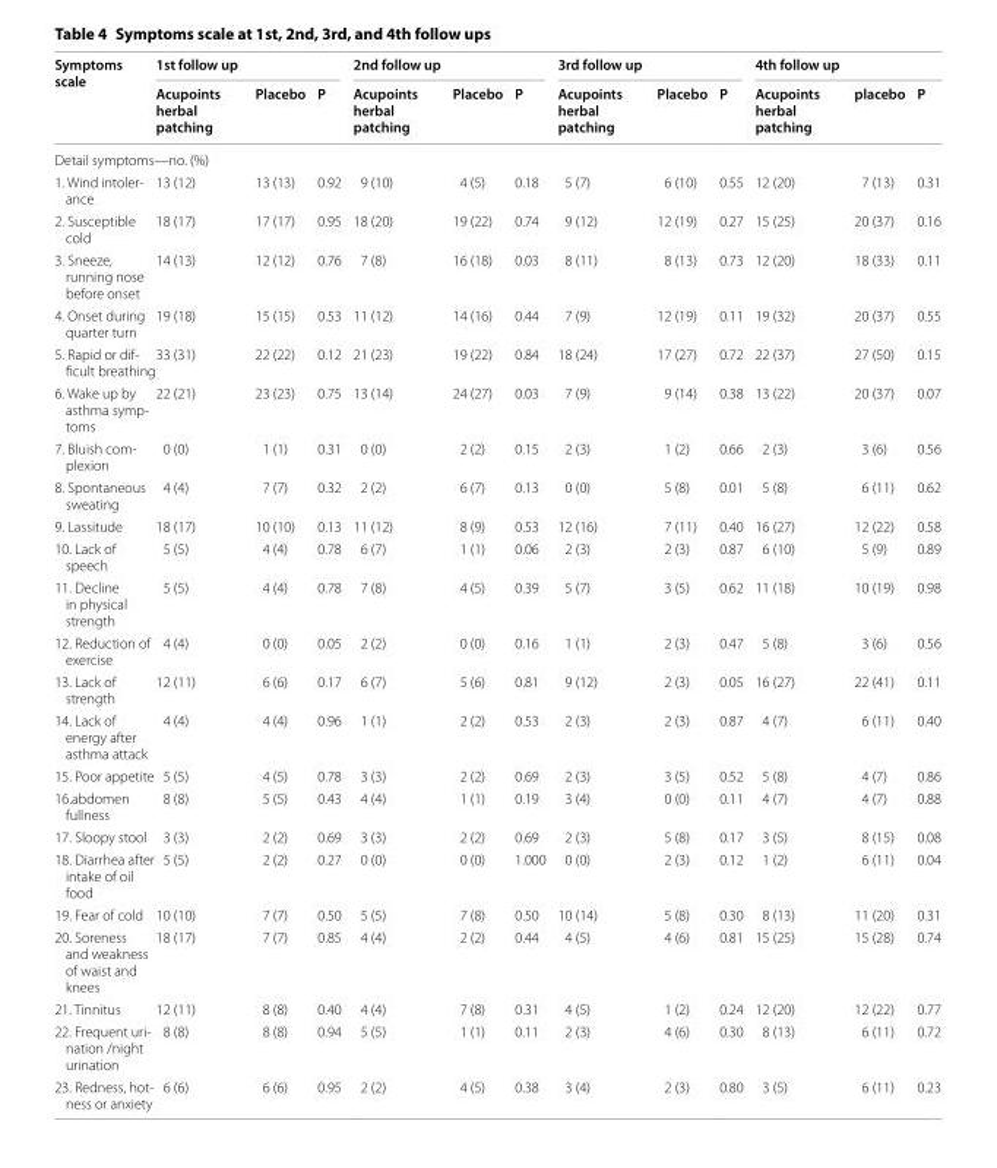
<table><thead><tr><td rowspan="2">Symptoms scale</td><td colspan="3">1st follow up</td><td colspan="3">2nd follow up</td><td colspan="3">3rd follow up</td><td colspan="3">4th follow up</td></tr><tr><td>Acupoints herbal patching</td><td>Placebo</td><td>P</td><td>Acupoints herbal patching</td><td>Placebo</td><td>P</td><td>Acupoints herbal patching</td><td>Placebo</td><td>P</td><td>Acupoints herbal patching</td><td>placebo</td><td>P</td></tr></thead><tbody><tr><td colspan="13">Detail symptoms—no. (%)</td></tr><tr><td>1. Wind intoler- ance</td><td>13 (12)</td><td>13 (13)</td><td>0.92</td><td>9 (10)</td><td>4 (5)</td><td>0.18</td><td>5 (7)</td><td>6 (10)</td><td>0.55</td><td>12 (20)</td><td>7 (13)</td><td>0.31</td></tr><tr><td>2. Susceptible cold</td><td>18 (17)</td><td>17 (17)</td><td>0.95</td><td>18 (20)</td><td>19 (22)</td><td>0.74</td><td>9 (12)</td><td>12 (19)</td><td>0.27</td><td>15 (25)</td><td>20 (37)</td><td>0.16</td></tr><tr><td>3. Sneeze, running nose before onset</td><td>14 (13)</td><td>12 (12)</td><td>0.76</td><td>7 (8)</td><td>16 (18)</td><td>0.03</td><td>8 (11)</td><td>8 (13)</td><td>0.73</td><td>12 (20)</td><td>18 (33)</td><td>0.11</td></tr><tr><td>4. Onset during quarter turn</td><td>19 (18)</td><td>15 (15)</td><td>0.53</td><td>11 (12)</td><td>14 (16)</td><td>0.44</td><td>7 (9)</td><td>12 (19)</td><td>0.11</td><td>19 (32)</td><td>20 (37)</td><td>0.55</td></tr><tr><td>5. Rapid or dif- ficult breathing</td><td>33 (31)</td><td>22 (22)</td><td>0.12</td><td>21 (23)</td><td>19 (22)</td><td>0.84</td><td>18 (24)</td><td>17 (27)</td><td>0.72</td><td>22 (37)</td><td>27 (50)</td><td>0.15</td></tr><tr><td>6. Wake up by asthma symp- toms</td><td>22 (21)</td><td>23 (23)</td><td>0.75</td><td>13 (14)</td><td>24 (27)</td><td>0.03</td><td>7 (9)</td><td>9 (14)</td><td>0.38</td><td>13 (22)</td><td>20 (37)</td><td>0.07</td></tr><tr><td>7. Bluish com- plexion</td><td>0 (0)</td><td>1 (1)</td><td>0.31</td><td>0 (0)</td><td>2 (2)</td><td>0.15</td><td>2 (3)</td><td>1 (2)</td><td>0.66</td><td>2 (3)</td><td>3 (6)</td><td>0.56</td></tr><tr><td>8. Spontaneous sweating</td><td>4 (4)</td><td>7 (7)</td><td>0.32</td><td>2 (2)</td><td>6 (7)</td><td>0.13</td><td>0 (0)</td><td>5 (8)</td><td>0.01</td><td>5 (8)</td><td>6 (11)</td><td>0.62</td></tr><tr><td>9. Lassitude</td><td>18 (17)</td><td>10 (10)</td><td>0.13</td><td>11 (12)</td><td>8 (9)</td><td>0.53</td><td>12 (16)</td><td>7 (11)</td><td>0.40</td><td>16 (27)</td><td>12 (22)</td><td>0.58</td></tr><tr><td>10. Lack of speech</td><td>5 (5)</td><td>4 (4)</td><td>0.78</td><td>6 (7)</td><td>1 (1)</td><td>0.06</td><td>2 (3)</td><td>2 (3)</td><td>0.87</td><td>6 (10)</td><td>5 (9)</td><td>0.89</td></tr><tr><td>11. Decline in physical strength</td><td>5 (5)</td><td>4 (4)</td><td>0.78</td><td>7 (8)</td><td>4 (5)</td><td>0.39</td><td>5 (7)</td><td>3 (5)</td><td>0.62</td><td>11 (18)</td><td>10 (19)</td><td>0.98</td></tr><tr><td>12. Reduction of exercise</td><td>4 (4)</td><td>0 (0)</td><td>0.05</td><td>2 (2)</td><td>0 (0)</td><td>0.16</td><td>1 (1)</td><td>2 (3)</td><td>0.47</td><td>5 (8)</td><td>3 (6)</td><td>0.56</td></tr><tr><td>13. Lack of strength</td><td>12 (11)</td><td>6 (6)</td><td>0.17</td><td>6 (7)</td><td>5 (6)</td><td>0.81</td><td>9 (12)</td><td>2 (3)</td><td>0.05</td><td>16 (27)</td><td>22 (41)</td><td>0.11</td></tr><tr><td>14. Lack of energy after asthma attack</td><td>4 (4)</td><td>4 (4)</td><td>0.96</td><td>1 (1)</td><td>2 (2)</td><td>0.53</td><td>2 (3)</td><td>2 (3)</td><td>0.87</td><td>4 (7)</td><td>6 (11)</td><td>0.40</td></tr><tr><td>15. Poor appetite</td><td>5 (5)</td><td>4 (5)</td><td>0.78</td><td>3 (3)</td><td>2 (2)</td><td>0.69</td><td>2 (3)</td><td>3 (5)</td><td>0.52</td><td>5 (8)</td><td>4 (7)</td><td>0.86</td></tr><tr><td>16.abdomen fullness</td><td>8 (8)</td><td>5 (5)</td><td>0.43</td><td>4 (4)</td><td>1 (1)</td><td>0.19</td><td>3 (4)</td><td>0 (0)</td><td>0.11</td><td>4 (7)</td><td>4 (7)</td><td>0.88</td></tr><tr><td>17. Sloopy stool</td><td>3 (3)</td><td>2 (2)</td><td>0.69</td><td>3 (3)</td><td>2 (2)</td><td>0.69</td><td>2 (3)</td><td>5 (8)</td><td>0.17</td><td>3 (5)</td><td>8 (15)</td><td>0.08</td></tr><tr><td>18. Diarrhea after intake of oil food</td><td>5 (5)</td><td>2 (2)</td><td>0.27</td><td>0 (0)</td><td>0 (0)</td><td>1.000</td><td>0 (0)</td><td>2 (3)</td><td>0.12</td><td>1 (2)</td><td>6 (11)</td><td>0.04</td></tr><tr><td>19. Fear of cold</td><td>10 (10)</td><td>7 (7)</td><td>0.50</td><td>5 (5)</td><td>7 (8)</td><td>0.50</td><td>10 (14)</td><td>5 (8)</td><td>0.30</td><td>8 (13)</td><td>11 (20)</td><td>0.31</td></tr><tr><td>20. Soreness and weakness of waist and knees</td><td>18 (17)</td><td>7 (7)</td><td>0.85</td><td>4 (4)</td><td>2 (2)</td><td>0.44</td><td>4 (5)</td><td>4 (6)</td><td>0.81</td><td>15 (25)</td><td>15 (28)</td><td>0.74</td></tr><tr><td>21. Tinnitus</td><td>12 (11)</td><td>8 (8)</td><td>0.40</td><td>4 (4)</td><td>7 (8)</td><td>0.31</td><td>4 (5)</td><td>1 (2)</td><td>0.24</td><td>12 (20)</td><td>12 (22)</td><td>0.77</td></tr><tr><td>22. Frequent uri- nation /night urination</td><td>8 (8)</td><td>8 (8)</td><td>0.94</td><td>5 (5)</td><td>1 (1)</td><td>0.11</td><td>2 (3)</td><td>4 (6)</td><td>0.30</td><td>8 (13)</td><td>6 (11)</td><td>0.72</td></tr><tr><td>23. Redness, hot- ness or anxiety</td><td>6 (6)</td><td>6 (6)</td><td>0.95</td><td>2 (2)</td><td>4 (5)</td><td>0.38</td><td>3 (4)</td><td>2 (3)</td><td>0.80</td><td>3 (5)</td><td>6 (11)</td><td>0.23</td></tr></tbody></table>